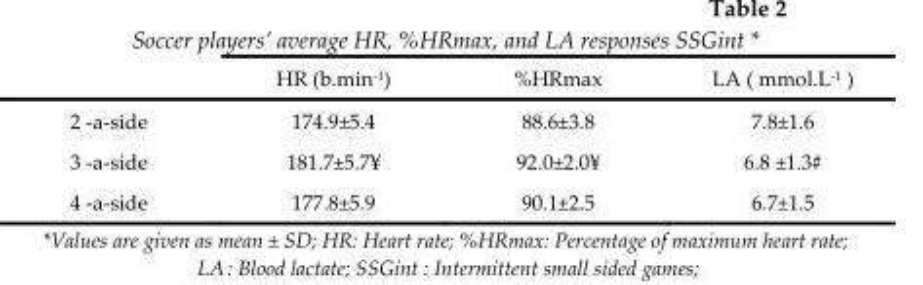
<table><thead><tr><td></td><td>HR (b.min-1)</td><td>%HRmax</td><td>LA ( mmol.L-1 )</td></tr></thead><tbody><tr><td>2 -a-side</td><td>174.9±5.4</td><td>88.6±3.8</td><td>7.8±1.6</td></tr><tr><td>3 -a-side</td><td>181.7±5.7¥</td><td>92.0±2.0¥</td><td>6.8 ±1.3#</td></tr><tr><td>4 -a-side</td><td>177.8±5.9</td><td>90.1±2.5</td><td>6.7±1.5</td></tr></tbody></table>